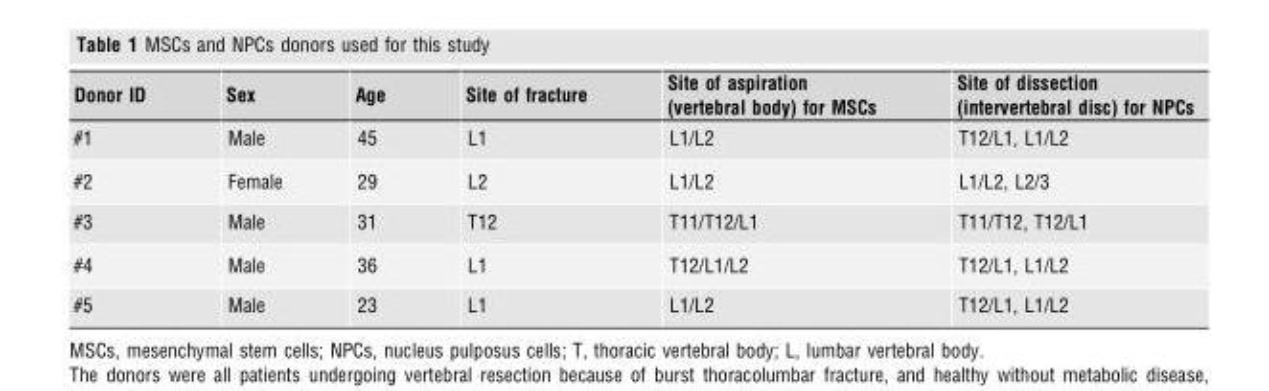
<table><thead><tr><td>Donor ID</td><td>Sex</td><td>Age</td><td>Site of fracture</td><td>Site of aspiration (vertebral body) for MSCs</td><td>Site of dissection (intervertebral disc) for NPCs</td></tr></thead><tbody><tr><td>#1</td><td>Male</td><td>45</td><td>L1</td><td>L1/L2</td><td>T12/L1, L1/L2</td></tr><tr><td>#2</td><td>Female</td><td>29</td><td>L2</td><td>L1/L2</td><td>L1/L2, L2/3</td></tr><tr><td>#3</td><td>Male</td><td>31</td><td>T12</td><td>T11/T12/L1</td><td>T11/T12, T12/L1</td></tr><tr><td>#4</td><td>Male</td><td>36</td><td>L1</td><td>T12/L1/L2</td><td>T12/L1, L1/L2</td></tr><tr><td>#5</td><td>Male</td><td>23</td><td>L1</td><td>L1/L2</td><td>T12/L1, L1/L2</td></tr></tbody></table>